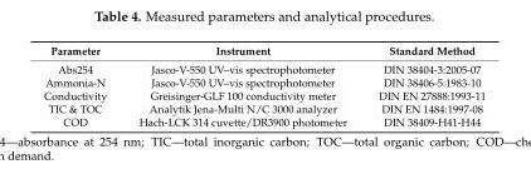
<table><thead><tr><td>Parameter</td><td>Instrument</td><td>Standard Method</td></tr></thead><tbody><tr><td>Abs254</td><td>Jasco-V-550 UV–vis spectrophotometer</td><td>DIN 38404-3:2005-07</td></tr><tr><td>Ammonia-N</td><td>Jasco-V-550 UV–vis spectrophotometer</td><td>DIN 38406-5:1983-10</td></tr><tr><td>Conductivity</td><td>Greisinger-GLF 100 conductivity meter</td><td>DIN EN 27888:1993-11</td></tr><tr><td>TIC &amp; TOC</td><td>Analytik Jena-Multi N/C 3000 analyzer</td><td>DIN EN 1484:1997-08</td></tr><tr><td>COD</td><td>Hach-LCK 314 cuvette/DR3900 photometer</td><td>DIN 38409-H41-H44</td></tr></tbody></table>